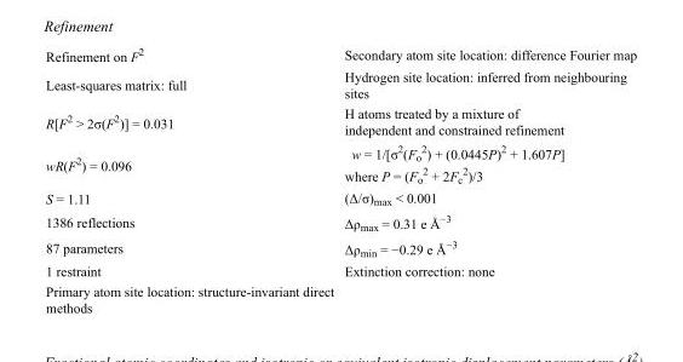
<table><tbody><tr><td>Refinement on F<sup>2</sup></td><td>Secondary atom site location: difference Fourier map</td></tr><tr><td>Least-squares matrix: full</td><td>Hydrogen site location: inferred from neighbouring sites</td></tr><tr><td>R[F<sup>2</sup> &gt; 2σ(F<sup>2</sup>)] = 0.031</td><td>H atoms treated by a mixture of independent and constrained refinement</td></tr><tr><td>wR(F<sup>2</sup>) = 0.096</td><td>w = 1/[σ<sup>2</sup>(F<sub>o</sub> <sup>2</sup>) + (0.0445P)<sup>2</sup> + 1.607P] where P = (F<sub>o</sub> <sup>2</sup> + 2F<sub>c</sub> <sup>2</sup>)/3</td></tr><tr><td>S = 1.11</td><td>(Δ/σ)<sub>max</sub> &lt; 0.001</td></tr><tr><td>1386 reflections</td><td>Δρ<sub>max</sub> = 0.31 e Å<sup>−3</sup></td></tr><tr><td>87 parameters</td><td>Δρ<sub>min</sub> = −0.29 e Å<sup>−3</sup></td></tr><tr><td>1 restraint</td><td>Extinction correction: none</td></tr><tr><td>Primary atom site location: structure-invariant direct methods</td><td></td></tr></tbody></table>